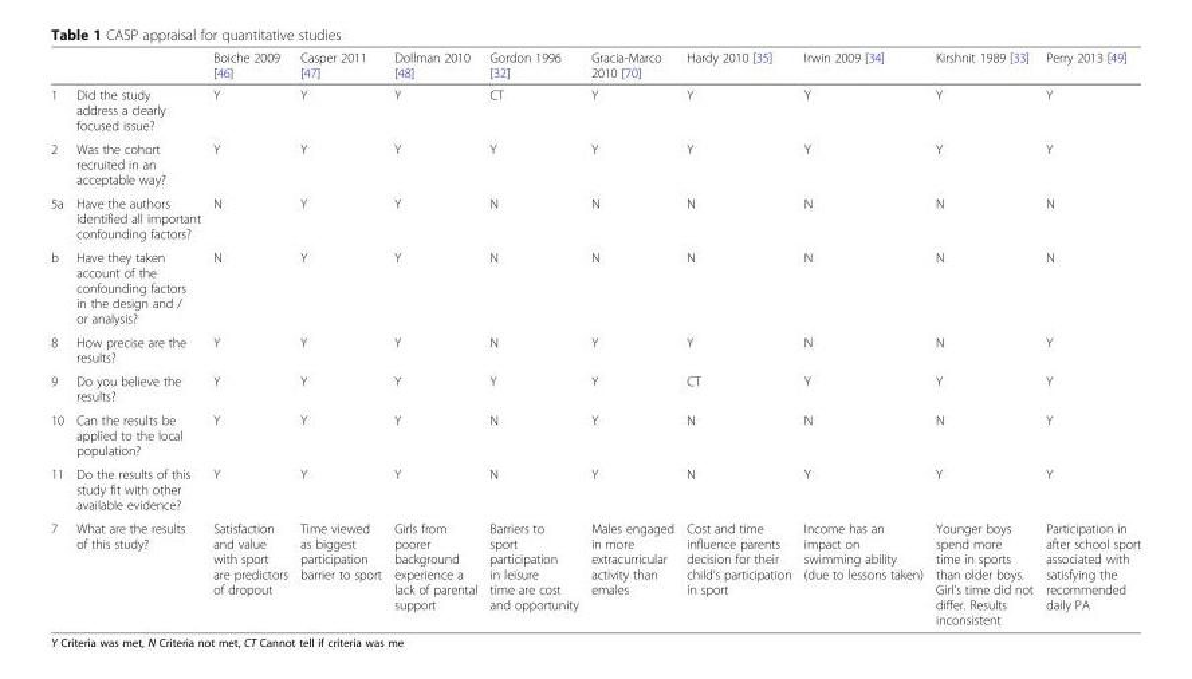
<table><thead><tr><td></td><td></td><td>Boiche 2009 [46]</td><td>Casper 2011 [47]</td><td>Dollman 2010 [48]</td><td>Gordon 1996 [32]</td><td>Gracia-Marco 2010 [70]</td><td>Hardy 2010 [35]</td><td>Irwin 2009 [34]</td><td>Kirshnit 1989 [33]</td><td>Perry 2013 [49]</td></tr></thead><tbody><tr><td>1</td><td>Did the study address a clearly focused issue?</td><td>Y</td><td>Y</td><td>Y</td><td>CT</td><td>Y</td><td>Y</td><td>Y</td><td>Y</td><td>Y</td></tr><tr><td>2</td><td>Was the cohort recruited in an acceptable way?</td><td>Y</td><td>Y</td><td>Y</td><td>Y</td><td>Y</td><td>Y</td><td>Y</td><td>Y</td><td>Y</td></tr><tr><td>5a</td><td>Have the authors identified all important confounding factors?</td><td>N</td><td>Y</td><td>Y</td><td>N</td><td>N</td><td>N</td><td>N</td><td>N</td><td>N</td></tr><tr><td>b</td><td>Have they taken account of the confounding factors in the design and / or analysis?</td><td>N</td><td>Y</td><td>Y</td><td>N</td><td>N</td><td>N</td><td>N</td><td>N</td><td>N</td></tr><tr><td>8</td><td>How precise are the results?</td><td>Y</td><td>Y</td><td>Y</td><td>N</td><td>Y</td><td>Y</td><td>N</td><td>N</td><td>Y</td></tr><tr><td>9</td><td>Do you believe the results?</td><td>Y</td><td>Y</td><td>Y</td><td>Y</td><td>Y</td><td>CT</td><td>Y</td><td>Y</td><td>Y</td></tr><tr><td>10</td><td>Can the results be applied to the local population?</td><td>Y</td><td>Y</td><td>Y</td><td>N</td><td>Y</td><td>N</td><td>N</td><td>N</td><td>Y</td></tr><tr><td>11</td><td>Do the results of this study fit with other available evidence?</td><td>Y</td><td>Y</td><td>Y</td><td>N</td><td>Y</td><td>N</td><td>Y</td><td>Y</td><td>Y</td></tr><tr><td>7</td><td>What are the results of this study?</td><td>Satisfaction and value with sport are predictors of dropout</td><td>Time viewed as biggest participation barrier to sport</td><td>Girls from poorer background experience a lack of parental support</td><td>Barriers to sport participation in leisure time are cost and opportunity</td><td>Males engaged in more extracurricular activity than emales</td><td>Cost and time influence parents decision for their child’s participation in sport</td><td>Income has an impact on swimming ability (due to lessons taken)</td><td>Younger boys spend more time in sports than older boys. Girl’s time did not differ. Results inconsistent</td><td>Participation in after school sport associated with satisfying the recommended daily PA</td></tr></tbody></table>